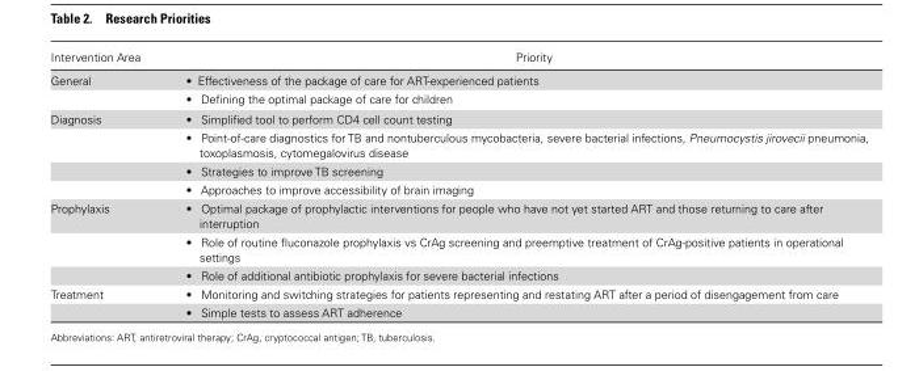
<table><thead><tr><td>Intervention Area</td><td>Priority</td></tr></thead><tbody><tr><td rowspan="2">General</td><td>• Effectiveness of the package of care for ART-experienced patients</td></tr><tr><td>• Defining the optimal package of care for children</td></tr><tr><td rowspan="4">Diagnosis</td><td>• Simplified tool to perform CD4 cell count testing</td></tr><tr><td>• Point-of-care diagnostics for TB and nontuberculous mycobacteria, severe bacterial infections, Pneumocystis jirovecii pneumonia, toxoplasmosis, cytomegalovirus disease</td></tr><tr><td>• Strategies to improve TB screening</td></tr><tr><td>• Approaches to improve accessibility of brain imaging</td></tr><tr><td rowspan="3">Prophylaxis</td><td>• Optimal package of prophylactic interventions for people who have not yet started ART and those returning to care after interruption</td></tr><tr><td>• Role of routine fluconazole prophylaxis vs CrAg screening and preemptive treatment of CrAg-positive patients in operational settings</td></tr><tr><td>• Role of additional antibiotic prophylaxis for severe bacterial infections</td></tr><tr><td rowspan="2">Treatment</td><td>• Monitoring and switching strategies for patients representing and restating ART after a period of disengagement from care</td></tr><tr><td>• Simple tests to assess ART adherence</td></tr></tbody></table>